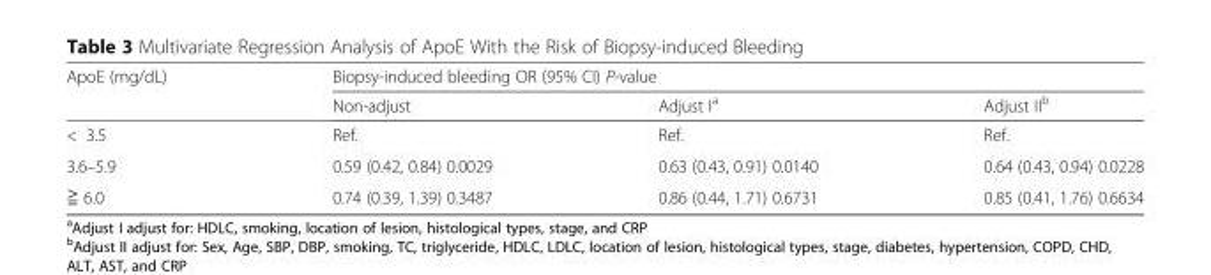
<table><thead><tr><td rowspan="2">ApoE (mg/dL)</td><td colspan="3">Biopsy-induced bleeding OR (95% CI) P-value</td></tr><tr><td>Non-adjust</td><td>Adjust I<sup>a</sup></td><td>Adjust II<sup>b</sup></td></tr></thead><tbody><tr><td>&lt; 3.5</td><td>Ref.</td><td>Ref.</td><td>Ref.</td></tr><tr><td>3.6–5.9</td><td>0.59 (0.42, 0.84) 0.0029</td><td>0.63 (0.43, 0.91) 0.0140</td><td>0.64 (0.43, 0.94) 0.0228</td></tr><tr><td>≧ 6.0</td><td>0.74 (0.39, 1.39) 0.3487</td><td>0.86 (0.44, 1.71) 0.6731</td><td>0.85 (0.41, 1.76) 0.6634</td></tr></tbody></table>